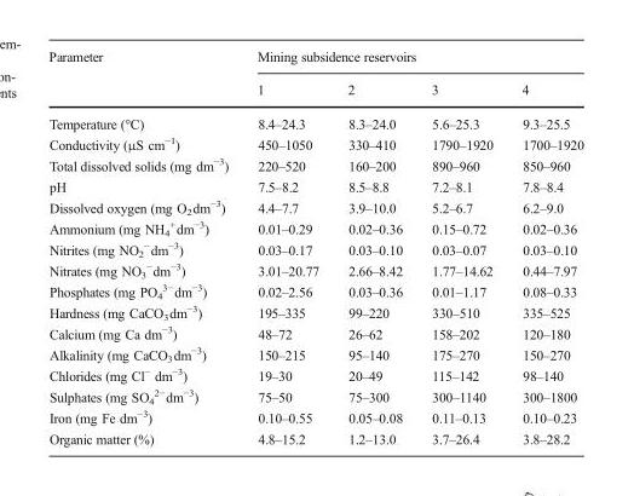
<table><thead><tr><td rowspan="2">Parameter</td><td colspan="4">Mining subsidence reservoirs</td></tr><tr><td>1</td><td>2</td><td>3</td><td>4</td></tr></thead><tbody><tr><td>Temperature (°C)</td><td>8.4–24.3</td><td>8.3–24.0</td><td>5.6–25.3</td><td>9.3–25.5</td></tr><tr><td>Conductivity (μS cm<sup>−1</sup>)</td><td>450–1050</td><td>330–410</td><td>1790–1920</td><td>1700–1920</td></tr><tr><td>Total dissolved solids (mg dm<sup>−3</sup>)</td><td>220–520</td><td>160–200</td><td>890–960</td><td>850–960</td></tr><tr><td>pH</td><td>7.5–8.2</td><td>8.5–8.8</td><td>7.2–8.1</td><td>7.8–8.4</td></tr><tr><td>Dissolved oxygen (mg O<sub>2</sub>dm<sup>−3</sup>)</td><td>4.4–7.7</td><td>3.9–10.0</td><td>5.2–6.7</td><td>6.2–9.0</td></tr><tr><td>Ammonium (mg NH<sub>4</sub> <sup>+</sup>dm<sup>−3</sup>)</td><td>0.01–0.29</td><td>0.02–0.36</td><td>0.15–0.72</td><td>0.02–0.36</td></tr><tr><td>Nitrites (mg NO<sub>2</sub> <sup>−</sup>dm<sup>−3</sup>)</td><td>0.03–0.17</td><td>0.03–0.10</td><td>0.03–0.07</td><td>0.03–0.10</td></tr><tr><td>Nitrates (mg NO<sub>3</sub> <sup>−</sup>dm<sup>−3</sup>)</td><td>3.01–20.77</td><td>2.66–8.42</td><td>1.77–14.62</td><td>0.44–7.97</td></tr><tr><td>Phosphates (mg PO<sub>4</sub> <sup>3−</sup>dm<sup>−3</sup>)</td><td>0.02–2.56</td><td>0.03–0.36</td><td>0.01–1.17</td><td>0.08–0.33</td></tr><tr><td>Hardness (mg CaCO<sub>3</sub>dm<sup>−3</sup>)</td><td>195–335</td><td>99–220</td><td>330–510</td><td>335–525</td></tr><tr><td>Calcium (mg Ca dm<sup>−3</sup>)</td><td>48–72</td><td>26–62</td><td>158–202</td><td>120–180</td></tr><tr><td>Alkalinity (mg CaCO<sub>3</sub>dm<sup>−3</sup>)</td><td>150–215</td><td>95–140</td><td>175–270</td><td>150–270</td></tr><tr><td>Chlorides (mg Cl<sup>−</sup> dm<sup>−3</sup>)</td><td>19–30</td><td>20–49</td><td>115–142</td><td>98–140</td></tr><tr><td>Sulphates (mg SO<sub>4</sub> <sup>2−</sup>dm<sup>−3</sup>)</td><td>75–50</td><td>75–300</td><td>300–1140</td><td>300–1800</td></tr><tr><td>Iron (mg Fe dm<sup>−3</sup>)</td><td>0.10–0.55</td><td>0.05–0.08</td><td>0.11–0.13</td><td>0.10–0.23</td></tr><tr><td>Organic matter (%)</td><td>4.8–15.2</td><td>1.2–13.0</td><td>3.7–26.4</td><td>3.8–28.2</td></tr></tbody></table>